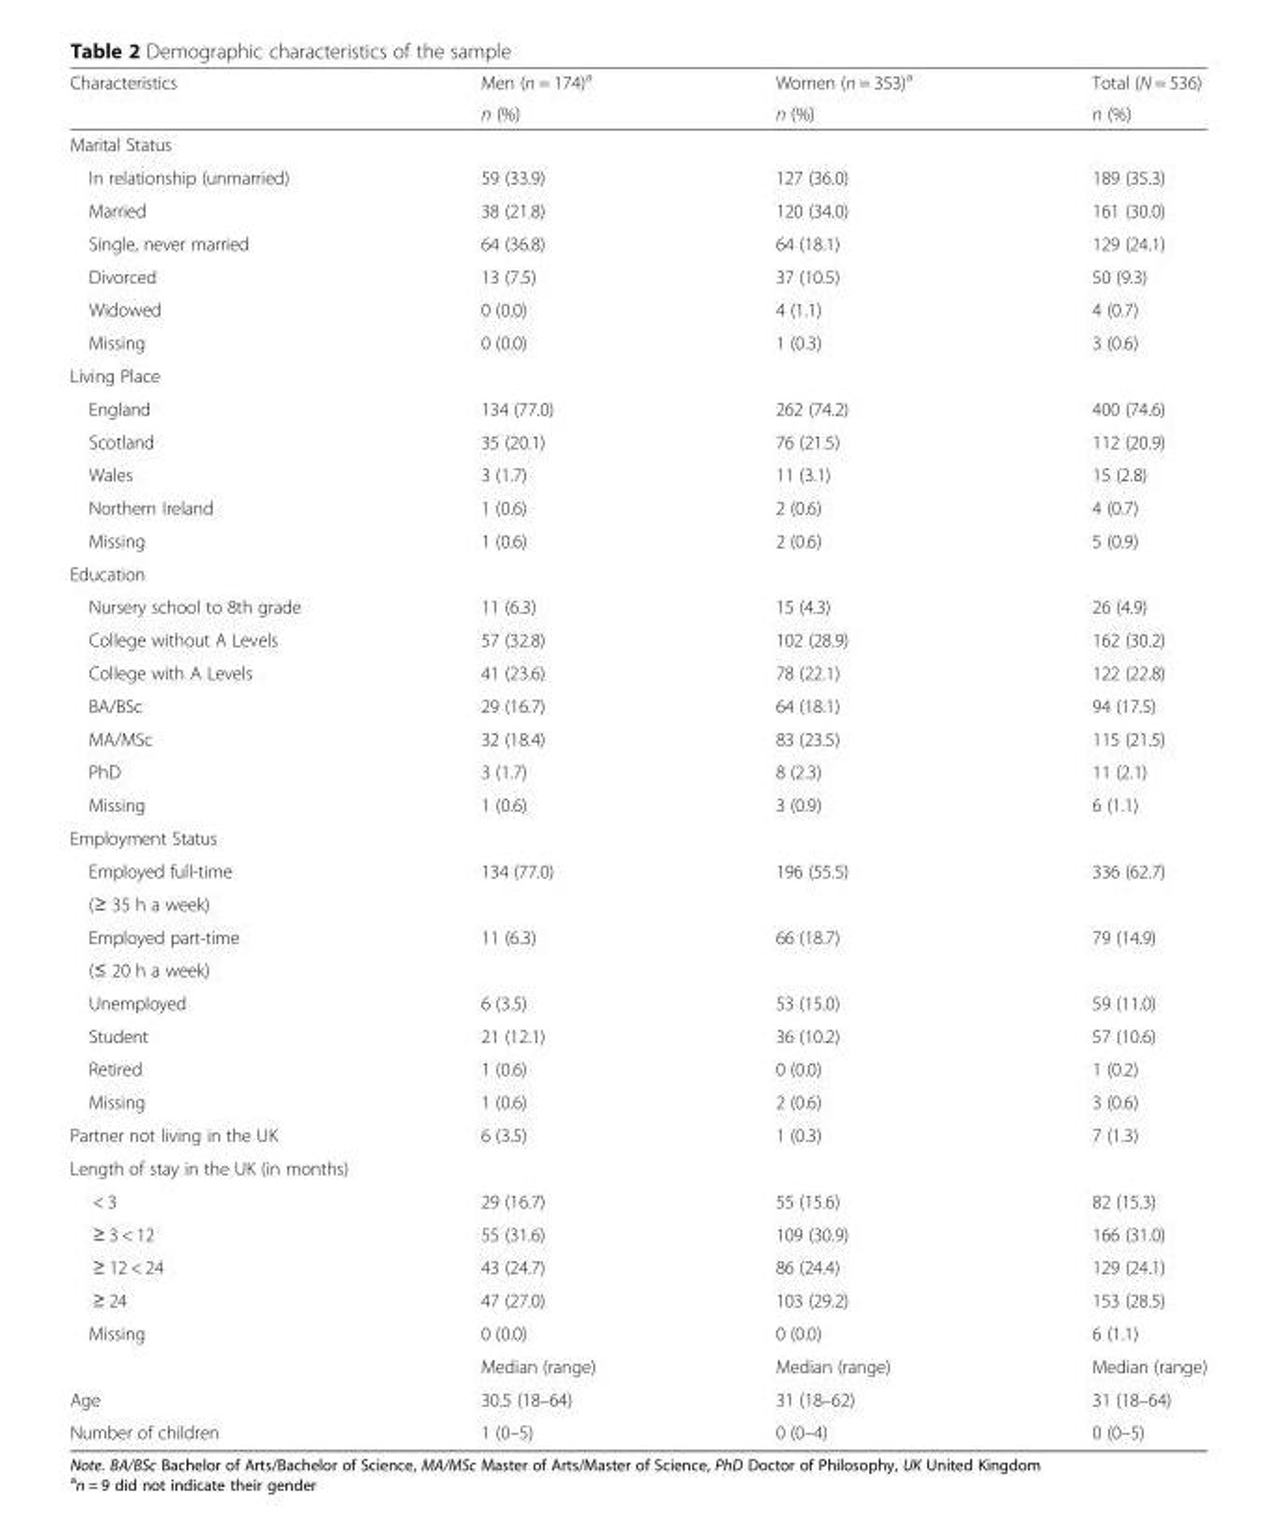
<table><thead><tr><td rowspan="2">Characteristics</td><td rowspan="2">Men (n = 174)<sup>a</sup> n (%)</td><td rowspan="2">Women (n = 353)<sup>a</sup> n (%)</td><td rowspan="2">Total (N = 536) n (%)</td></tr><tr></tr></thead><tbody><tr><td colspan="4">Marital Status</td></tr><tr><td>In relationship (unmarried)</td><td>59 (33.9)</td><td>127 (36.0)</td><td>189 (35.3)</td></tr><tr><td>Married</td><td>38 (21.8)</td><td>120 (34.0)</td><td>161 (30.0)</td></tr><tr><td>Single, never married</td><td>64 (36.8)</td><td>64 (18.1)</td><td>129 (24.1)</td></tr><tr><td>Divorced</td><td>13 (7.5)</td><td>37 (10.5)</td><td>50 (9.3)</td></tr><tr><td>Widowed</td><td>0 (0.0)</td><td>4 (1.1)</td><td>4 (0.7)</td></tr><tr><td>Missing</td><td>0 (0.0)</td><td>1 (0.3)</td><td>3 (0.6)</td></tr><tr><td colspan="4">Living Place</td></tr><tr><td>England</td><td>134 (77.0)</td><td>262 (74.2)</td><td>400 (74.6)</td></tr><tr><td>Scotland</td><td>35 (20.1)</td><td>76 (21.5)</td><td>112 (20.9)</td></tr><tr><td>Wales</td><td>3 (1.7)</td><td>11 (3.1)</td><td>15 (2.8)</td></tr><tr><td>Northern Ireland</td><td>1 (0.6)</td><td>2 (0.6)</td><td>4 (0.7)</td></tr><tr><td>Missing</td><td>1 (0.6)</td><td>2 (0.6)</td><td>5 (0.9)</td></tr><tr><td colspan="4">Education</td></tr><tr><td>Nursery school to 8th grade</td><td>11 (6.3)</td><td>15 (4.3)</td><td>26 (4.9)</td></tr><tr><td>College without A Levels</td><td>57 (32.8)</td><td>102 (28.9)</td><td>162 (30.2)</td></tr><tr><td>College with A Levels</td><td>41 (23.6)</td><td>78 (22.1)</td><td>122 (22.8)</td></tr><tr><td>BA/BSc</td><td>29 (16.7)</td><td>64 (18.1)</td><td>94 (17.5)</td></tr><tr><td>MA/MSc</td><td>32 (18.4)</td><td>83 (23.5)</td><td>115 (21.5)</td></tr><tr><td>PhD</td><td>3 (1.7)</td><td>8 (2.3)</td><td>11 (2.1)</td></tr><tr><td>Missing</td><td>1 (0.6)</td><td>3 (0.9)</td><td>6 (1.1)</td></tr><tr><td colspan="4">Employment Status</td></tr><tr><td>Employed full-time</td><td rowspan="2">134 (77.0)</td><td rowspan="2">196 (55.5)</td><td rowspan="2">336 (62.7)</td></tr><tr><td>(≥ 35 h a week)</td></tr><tr><td>Employed part-time</td><td rowspan="2">11 (6.3)</td><td rowspan="2">66 (18.7)</td><td rowspan="2">79 (14.9)</td></tr><tr><td>(≤ 20 h a week)</td></tr><tr><td>Unemployed</td><td>6 (3.5)</td><td>53 (15.0)</td><td>59 (11.0)</td></tr><tr><td>Student</td><td>21 (12.1)</td><td>36 (10.2)</td><td>57 (10.6)</td></tr><tr><td>Retired</td><td>1 (0.6)</td><td>0 (0.0)</td><td>1 (0.2)</td></tr><tr><td>Missing</td><td>1 (0.6)</td><td>2 (0.6)</td><td>3 (0.6)</td></tr><tr><td>Partner not living in the UK</td><td>6 (3.5)</td><td>1 (0.3)</td><td>7 (1.3)</td></tr><tr><td colspan="4">Length of stay in the UK (in months)</td></tr><tr><td>&lt; 3</td><td>29 (16.7)</td><td>55 (15.6)</td><td>82 (15.3)</td></tr><tr><td>≥ 3 &lt; 12</td><td>55 (31.6)</td><td>109 (30.9)</td><td>166 (31.0)</td></tr><tr><td>≥ 12 &lt; 24</td><td>43 (24.7)</td><td>86 (24.4)</td><td>129 (24.1)</td></tr><tr><td>≥ 24</td><td>47 (27.0)</td><td>103 (29.2)</td><td>153 (28.5)</td></tr><tr><td rowspan="2">Missing</td><td>0 (0.0)</td><td>0 (0.0)</td><td>6 (1.1)</td></tr><tr><td>Median (range)</td><td>Median (range)</td><td>Median (range)</td></tr><tr><td>Age</td><td>30.5 (18–64)</td><td>31 (18–62)</td><td>31 (18–64)</td></tr><tr><td>Number of children</td><td>1 (0–5)</td><td>0 (0–4)</td><td>0 (0–5)</td></tr></tbody></table>